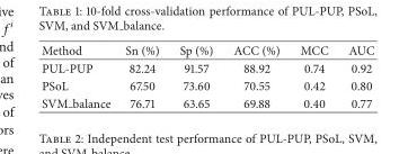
<table><thead><tr><td>Method</td><td>Sn (%)</td><td>Sp (%)</td><td>ACC (%)</td><td>MCC</td><td>AUC</td></tr></thead><tbody><tr><td>PUL-PUP</td><td>82.24</td><td>91.57</td><td>88.92</td><td>0.74</td><td>0.92</td></tr><tr><td>PSoL</td><td>67.50</td><td>73.60</td><td>70.55</td><td>0.42</td><td>0.80</td></tr><tr><td>SVM balance</td><td>76.71</td><td>63.65</td><td>69.88</td><td>0.40</td><td>0.77</td></tr></tbody></table>